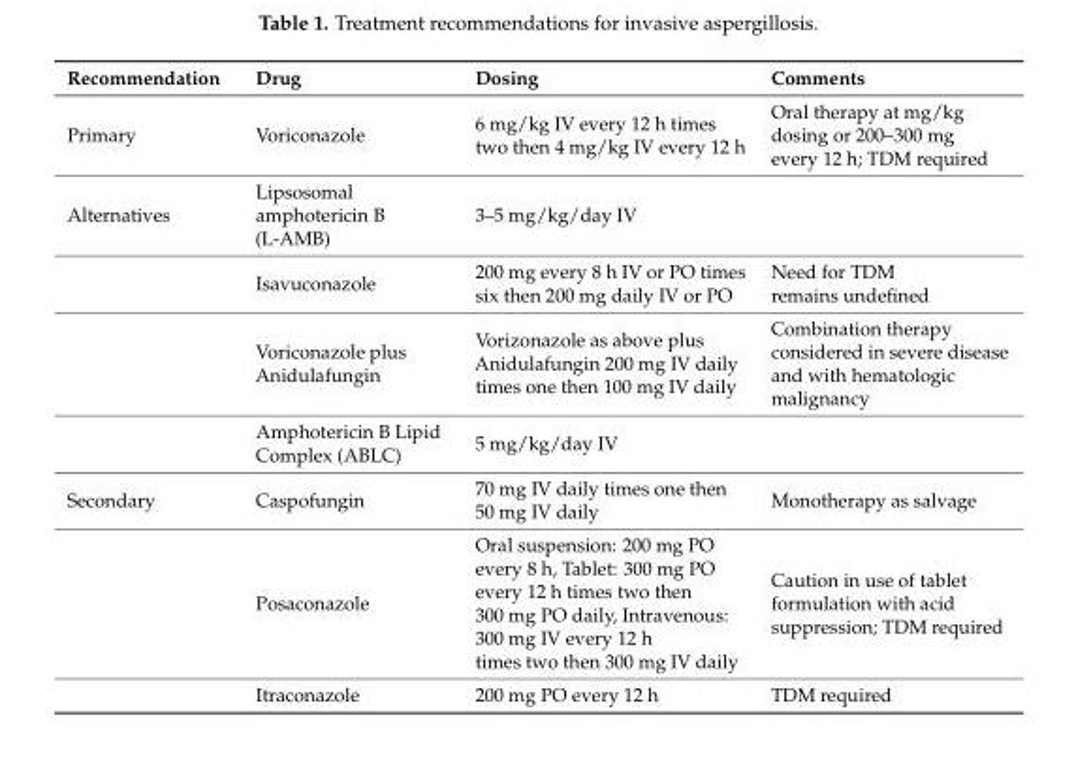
<table><thead><tr><td>Recommendation</td><td>Drug</td><td>Dosing</td><td>Comments</td></tr></thead><tbody><tr><td>Primary</td><td>Voriconazole</td><td>6 mg/kg IV every 12 h times two then 4 mg/kg IV every 12 h</td><td>Oral therapy at mg/kg dosing or 200–300 mg every 12 h; TDM required</td></tr><tr><td rowspan="4">Alternatives</td><td>Lipsosomal amphotericin B (L-AMB)</td><td>3–5 mg/kg/day IV</td><td></td></tr><tr><td>Isavuconazole</td><td>200 mg every 8 h IV or PO times six then 200 mg daily IV or PO</td><td>Need for TDM remains undefined</td></tr><tr><td>Voriconazole plus Anidulafungin</td><td>Vorizonazole as above plus Anidulafungin 200 mg IV daily times one then 100 mg IV daily</td><td>Combination therapy considered in severe disease and with hematologic malignancy</td></tr><tr><td>Amphotericin B Lipid Complex (ABLC)</td><td>5 mg/kg/day IV</td><td></td></tr><tr><td rowspan="3">Secondary</td><td>Caspofungin</td><td>70 mg IV daily times one then 50 mg IV daily</td><td>Monotherapy as salvage</td></tr><tr><td>Posaconazole</td><td>Oral suspension: 200 mg PO every 8 h, Tablet: 300 mg PO every 12 h times two then 300 mg PO daily, Intravenous: 300 mg IV every 12 h times two then 300 mg IV daily</td><td>Caution in use of tablet formulation with acid suppression; TDM required</td></tr><tr><td>Itraconazole</td><td>200 mg PO every 12 h</td><td>TDM required</td></tr></tbody></table>